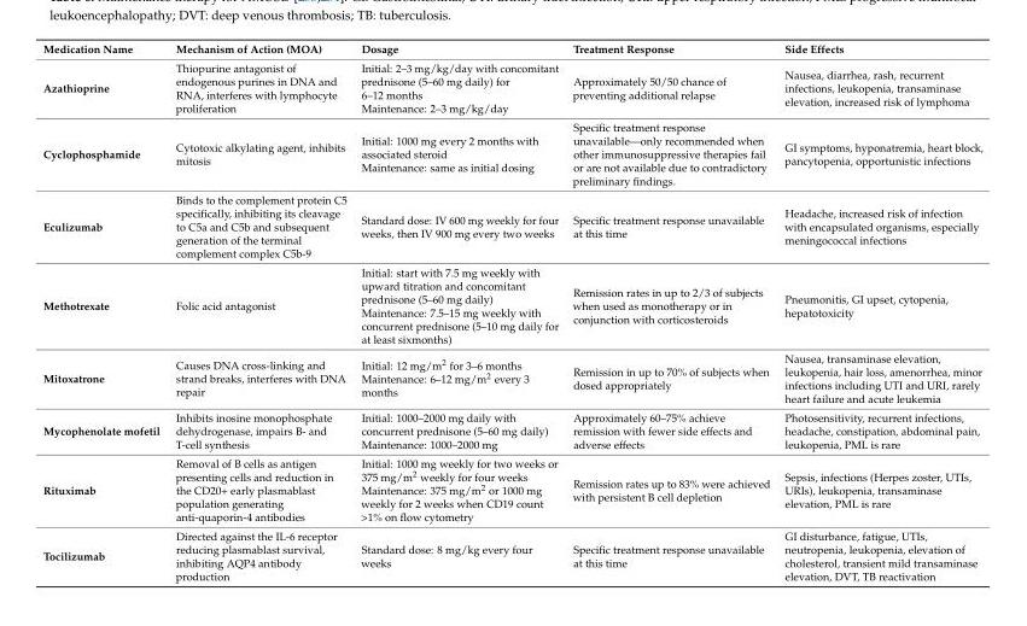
<table><thead><tr><td>Medication Name</td><td>Mechanism of Action (MOA)</td><td>Dosage</td><td>Treatment Response</td><td>Side Effects</td></tr></thead><tbody><tr><td>Azathioprine</td><td>Thiopurine antagonist of endogenous purines in DNA and RNA, interferes with lymphocyte proliferation</td><td>Initial: 2–3 mg/kg/day with concomitant prednisone (5–60 mg daily) for 6–12 months Maintenance: 2–3 mg/kg/day</td><td>Approximately 50/50 chance of preventing additional relapse</td><td>Nausea, diarrhea, rash, recurrent infections, leukopenia, transaminase elevation, increased risk of lymphoma</td></tr><tr><td>Cyclophosphamide</td><td>Cytotoxic alkylating agent, inhibits mitosis</td><td>Initial: 1000 mg every 2 months with associated steroid Maintenance: same as initial dosing</td><td>Specific treatment response unavailable—only recommended when other immunosuppressive therapies fail or are not available due to contradictory preliminary findings.</td><td>GI symptoms, hyponatremia, heart block, pancytopenia, opportunistic infections</td></tr><tr><td>Eculizumab</td><td>Binds to the complement protein C5 specifically, inhibiting its cleavage to C5a and C5b and subsequent generation of the terminal complement complex C5b-9</td><td>Standard dose: IV 600 mg weekly for four weeks, then IV 900 mg every two weeks</td><td>Specific treatment response unavailable at this time</td><td>Headache, increased risk of infection with encapsulated organisms, especially meningococcal infections</td></tr><tr><td>Methotrexate</td><td>Folic acid antagonist</td><td>Initial: start with 7.5 mg weekly with upward titration and concomitant prednisone (5–60 mg daily) Maintenance: 7.5–15 mg weekly with concurrent prednisone (5–10 mg daily for at least sixmonths)</td><td>Remission rates in up to 2/3 of subjects when used as monotherapy or in conjunction with corticosteroids</td><td>Pneumonitis, GI upset, cytopenia, hepatotoxicity</td></tr><tr><td>Mitoxatrone</td><td>Causes DNA cross-linking and strand breaks, interferes with DNA repair</td><td>Initial: 12 mg/m<sup>2</sup> for 3–6 months Maintenance: 6–12 mg/m<sup>2</sup> every 3 months</td><td>Remission in up to 70% of subjects when dosed appropriately</td><td>Nausea, transaminase elevation, leukopenia, hair loss, amenorrhea, minor infections including UTI and URI, rarely heart failure and acute leukemia</td></tr><tr><td>Mycophenolate mofetil</td><td>Inhibits inosine monophosphate dehydrogenase, impairs B- and T-cell synthesis</td><td>Initial: 1000–2000 mg daily with concurrent prednisone (5–60 mg daily) Maintenance: 1000–2000 mg</td><td>Approximately 60–75% achieve remission with fewer side effects and adverse effects</td><td>Photosensitivity, recurrent infections, headache, constipation, abdominal pain, leukopenia, PML is rare</td></tr><tr><td>Rituximab</td><td>Removal of B cells as antigen presenting cells and reduction in the CD20+ early plasmablast population generating anti-quaporin-4 antibodies</td><td>Initial: 1000 mg weekly for two weeks or 375 mg/m<sup>2</sup> weekly for four weeks Maintenance: 375 mg/m<sup>2</sup> or 1000 mg weekly for 2 weeks when CD19 count &gt;1% on flow cytometry</td><td>Remission rates up to 83% were achieved with persistent B cell depletion</td><td>Sepsis, infections (Herpes zoster, UTIs, URIs), leukopenia, transaminase elevation, PML is rare</td></tr><tr><td>Tocilizumab</td><td>Directed against the IL-6 receptor reducing plasmablast survival, inhibiting AQP4 antibody production</td><td>Standard dose: 8 mg/kg every four weeks</td><td>Specific treatment response unavailable at this time</td><td>GI disturbance, fatigue, UTIs, neutropenia, leukopenia, elevation of cholesterol, transient mild transaminase elevation, DVT, TB reactivation</td></tr></tbody></table>